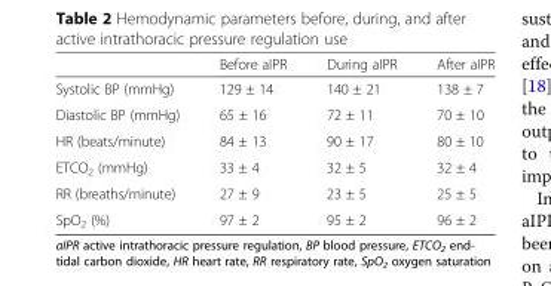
<table><thead><tr><td></td><td>Before aIPR</td><td>During aIPR</td><td>After aIPR</td></tr></thead><tbody><tr><td>Systolic BP (mmHg)</td><td>129 ± 14</td><td>140 ± 21</td><td>138 ± 7</td></tr><tr><td>Diastolic BP (mmHg)</td><td>65 ± 16</td><td>72 ± 11</td><td>70 ± 10</td></tr><tr><td>HR (beats/minute)</td><td>84 ± 13</td><td>90 ± 17</td><td>80 ± 10</td></tr><tr><td>ETCO<sub>2</sub> (mmHg)</td><td>33 ± 4</td><td>32 ± 5</td><td>32 ± 4</td></tr><tr><td>RR (breaths/minute)</td><td>27 ± 9</td><td>23 ± 5</td><td>25 ± 5</td></tr><tr><td>SpO<sub>2</sub> (%)</td><td>97 ± 2</td><td>95 ± 2</td><td>96 ± 2</td></tr></tbody></table>